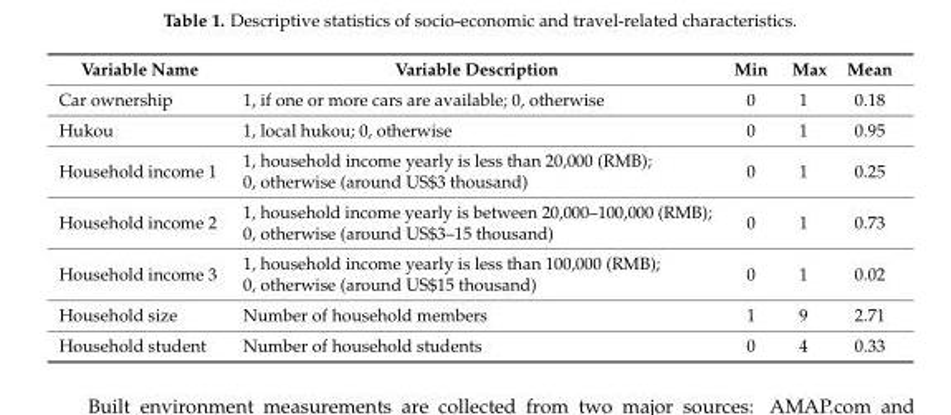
<table><thead><tr><td>Variable Name</td><td>Variable Description</td><td>Min</td><td>Max</td><td>Mean</td></tr></thead><tbody><tr><td>Car ownership</td><td>1, if one or more cars are available; 0, otherwise</td><td>0</td><td>1</td><td>0.18</td></tr><tr><td>Hukou</td><td>1, local hukou; 0, otherwise</td><td>0</td><td>1</td><td>0.95</td></tr><tr><td>Household income 1</td><td>1, household income yearly is less than 20,000 (RMB); 0, otherwise (around US$3 thousand)</td><td>0</td><td>1</td><td>0.25</td></tr><tr><td>Household income 2</td><td>1, household income yearly is between 20,000–100,000 (RMB); 0, otherwise (around US$3–15 thousand)</td><td>0</td><td>1</td><td>0.73</td></tr><tr><td>Household income 3</td><td>1, household income yearly is less than 100,000 (RMB); 0, otherwise (around US$15 thousand)</td><td>0</td><td>1</td><td>0.02</td></tr><tr><td>Household size</td><td>Number of household members</td><td>1</td><td>9</td><td>2.71</td></tr><tr><td>Household student</td><td>Number of household students</td><td>0</td><td>4</td><td>0.33</td></tr></tbody></table>